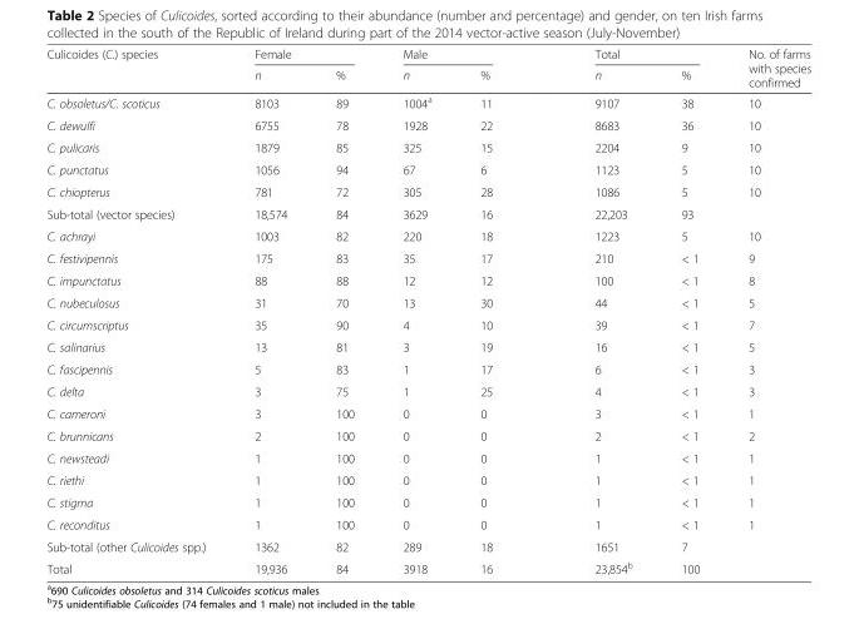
<table><thead><tr><td rowspan="2">Culicoides (C.) species</td><td colspan="2">Female</td><td colspan="2">Male</td><td colspan="2">Total</td><td rowspan="2">No. of farms with species confirmed</td></tr><tr><td>n</td><td>%</td><td>n</td><td>%</td><td>n</td><td>%</td></tr></thead><tbody><tr><td>C. obsoletus/C. scoticus</td><td>8103</td><td>89</td><td>1004<sup>a</sup></td><td>11</td><td>9107</td><td>38</td><td>10</td></tr><tr><td>C. dewulfi</td><td>6755</td><td>78</td><td>1928</td><td>22</td><td>8683</td><td>36</td><td>10</td></tr><tr><td>C. pulicaris</td><td>1879</td><td>85</td><td>325</td><td>15</td><td>2204</td><td>9</td><td>10</td></tr><tr><td>C. punctatus</td><td>1056</td><td>94</td><td>67</td><td>6</td><td>1123</td><td>5</td><td>10</td></tr><tr><td>C. chiopterus</td><td>781</td><td>72</td><td>305</td><td>28</td><td>1086</td><td>5</td><td>10</td></tr><tr><td>Sub-total (vector species)</td><td>18,574</td><td>84</td><td>3629</td><td>16</td><td>22,203</td><td>93</td><td></td></tr><tr><td>C. achrayi</td><td>1003</td><td>82</td><td>220</td><td>18</td><td>1223</td><td>5</td><td>10</td></tr><tr><td>C. festivipennis</td><td>175</td><td>83</td><td>35</td><td>17</td><td>210</td><td>&lt; 1</td><td>9</td></tr><tr><td>C. impunctatus</td><td>88</td><td>88</td><td>12</td><td>12</td><td>100</td><td>&lt; 1</td><td>8</td></tr><tr><td>C. nubeculosus</td><td>31</td><td>70</td><td>13</td><td>30</td><td>44</td><td>&lt; 1</td><td>5</td></tr><tr><td>C. circumscriptus</td><td>35</td><td>90</td><td>4</td><td>10</td><td>39</td><td>&lt; 1</td><td>7</td></tr><tr><td>C. salinarius</td><td>13</td><td>81</td><td>3</td><td>19</td><td>16</td><td>&lt; 1</td><td>5</td></tr><tr><td>C. fascipennis</td><td>5</td><td>83</td><td>1</td><td>17</td><td>6</td><td>&lt; 1</td><td>3</td></tr><tr><td>C. delta</td><td>3</td><td>75</td><td>1</td><td>25</td><td>4</td><td>&lt; 1</td><td>3</td></tr><tr><td>C. cameroni</td><td>3</td><td>100</td><td>0</td><td>0</td><td>3</td><td>&lt; 1</td><td>1</td></tr><tr><td>C. brunnicans</td><td>2</td><td>100</td><td>0</td><td>0</td><td>2</td><td>&lt; 1</td><td>2</td></tr><tr><td>C. newsteadi</td><td>1</td><td>100</td><td>0</td><td>0</td><td>1</td><td>&lt; 1</td><td>1</td></tr><tr><td>C. riethi</td><td>1</td><td>100</td><td>0</td><td>0</td><td>1</td><td>&lt; 1</td><td>1</td></tr><tr><td>C. stigma</td><td>1</td><td>100</td><td>0</td><td>0</td><td>1</td><td>&lt; 1</td><td>1</td></tr><tr><td>C. reconditus</td><td>1</td><td>100</td><td>0</td><td>0</td><td>1</td><td>&lt; 1</td><td>1</td></tr><tr><td>Sub-total (other Culicoides spp.)</td><td>1362</td><td>82</td><td>289</td><td>18</td><td>1651</td><td>7</td><td></td></tr><tr><td>Total</td><td>19,936</td><td>84</td><td>3918</td><td>16</td><td>23,854<sup>b</sup></td><td>100</td><td></td></tr></tbody></table>